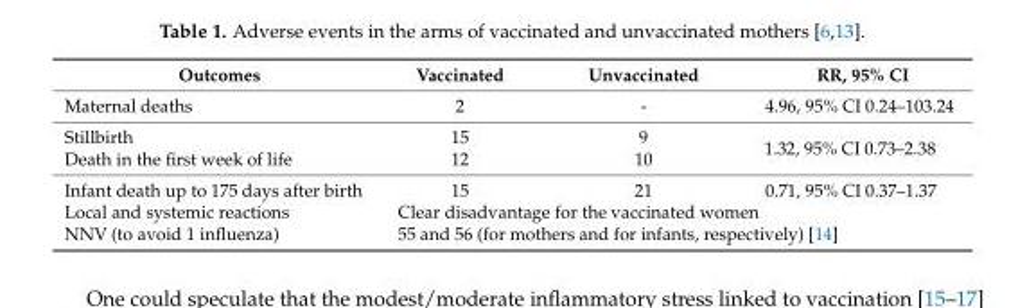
<table><thead><tr><td>Outcomes</td><td>Vaccinated</td><td>Unvaccinated</td><td>RR, 95% CI</td></tr></thead><tbody><tr><td>Maternal deaths</td><td>2</td><td>-</td><td>4.96, 95% CI 0.24–103.24</td></tr><tr><td>Stillbirth</td><td>15</td><td>9</td><td rowspan="2">1.32, 95% CI 0.73–2.38</td></tr><tr><td>Death in the first week of life</td><td>12</td><td>10</td></tr><tr><td>Infant death up to 175 days after birth</td><td>15</td><td>21</td><td>0.71, 95% CI 0.37–1.37</td></tr><tr><td>Local and systemic reactions</td><td colspan="3">Clear disadvantage for the vaccinated women</td></tr><tr><td>NNV (to avoid 1 influenza)</td><td colspan="3">55 and 56 (for mothers and for infants, respectively) [14]</td></tr></tbody></table>